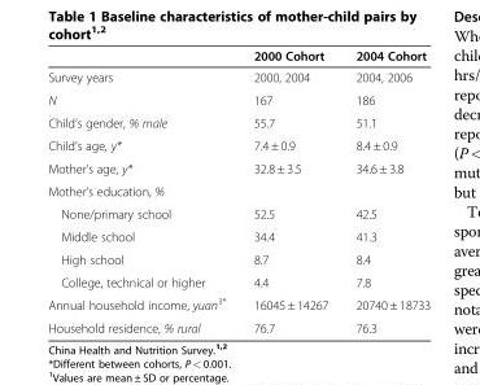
<table><thead><tr><td></td><td>2000 Cohort</td><td>2004 Cohort</td></tr></thead><tbody><tr><td>Survey years</td><td>2000, 2004</td><td>2004, 2006</td></tr><tr><td>N</td><td>167</td><td>186</td></tr><tr><td>Child’s gender, % male</td><td>55.7</td><td>51.1</td></tr><tr><td>Child’s age, y*</td><td>7.4 ± 0.9</td><td>8.4 ± 0.9</td></tr><tr><td>Mother’s age, y*</td><td>32.8 ± 3.5</td><td>34.6 ± 3.8</td></tr><tr><td colspan="3">Mother’s education, %</td></tr><tr><td>None/primary school</td><td>52.5</td><td>42.5</td></tr><tr><td>Middle school</td><td>34.4</td><td>41.3</td></tr><tr><td>High school</td><td>8.7</td><td>8.4</td></tr><tr><td>College, technical or higher</td><td>4.4</td><td>7.8</td></tr><tr><td>Annual household income, yuan<sup>3*</sup></td><td>16045 ± 14267</td><td>20740 ± 18733</td></tr><tr><td>Household residence, % rural</td><td>76.7</td><td>76.3</td></tr></tbody></table>